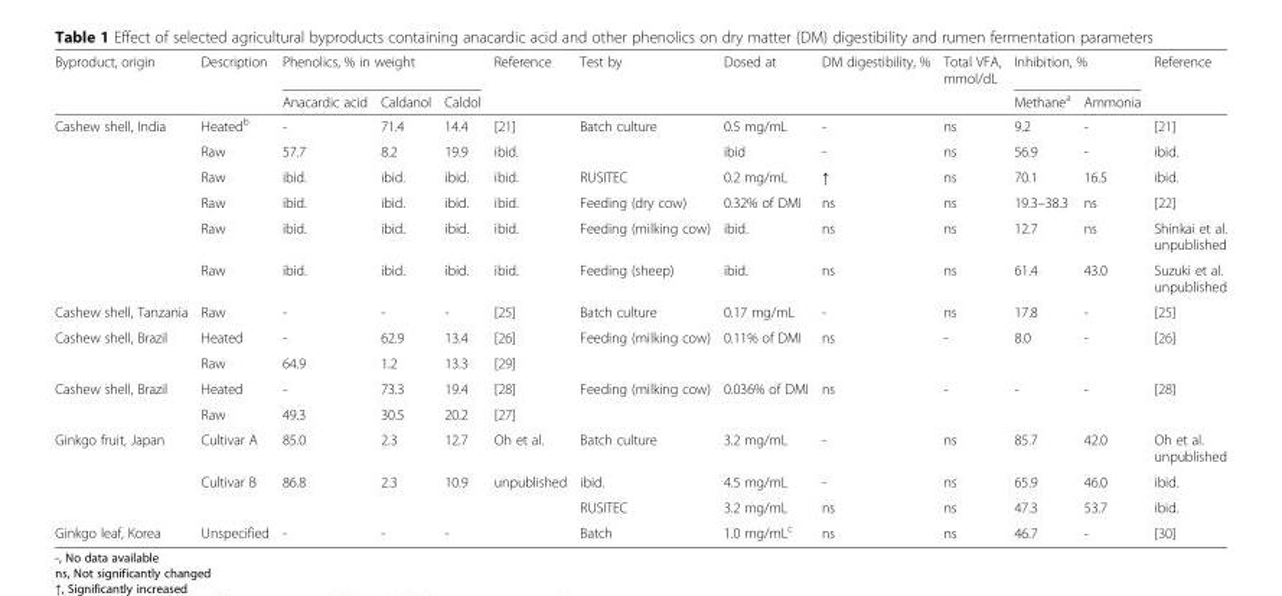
<table><thead><tr><td rowspan="2">Byproduct, origin</td><td rowspan="2">Description</td><td colspan="3">Phenolics, % in weight</td><td rowspan="2">Reference</td><td rowspan="2">Test by</td><td rowspan="2">Dosed at</td><td rowspan="2">DM digestibility, %</td><td rowspan="2">Total VFA, mmol/dL</td><td colspan="2">Inhibition, %</td><td rowspan="2">Reference</td></tr><tr><td>Anacardic acid</td><td>Caldanol</td><td>Caldol</td><td>Methane<sup>a</sup></td><td>Ammonia</td></tr></thead><tbody><tr><td rowspan="6">Cashew shell, India</td><td>Heated<sup>b</sup></td><td>-</td><td>71.4</td><td>14.4</td><td>[21]</td><td>Batch culture</td><td>0.5 mg/mL</td><td>-</td><td>ns</td><td>9.2</td><td>-</td><td>[21]</td></tr><tr><td>Raw</td><td>57.7</td><td>8.2</td><td>19.9</td><td>ibid.</td><td></td><td>ibid</td><td>-</td><td>ns</td><td>56.9</td><td>-</td><td>ibid.</td></tr><tr><td>Raw</td><td>ibid.</td><td>ibid.</td><td>ibid.</td><td>ibid.</td><td>RUSITEC</td><td>0.2 mg/mL</td><td>↑</td><td>ns</td><td>70.1</td><td>16.5</td><td>ibid.</td></tr><tr><td>Raw</td><td>ibid.</td><td>ibid.</td><td>ibid.</td><td>ibid.</td><td>Feeding (dry cow)</td><td>0.32% of DMI</td><td>ns</td><td>ns</td><td>19.3–38.3</td><td>ns</td><td>[22]</td></tr><tr><td>Raw</td><td>ibid.</td><td>ibid.</td><td>ibid.</td><td>ibid.</td><td>Feeding (milking cow)</td><td>ibid.</td><td>ns</td><td>ns</td><td>12.7</td><td>ns</td><td>Shinkai et al. unpublished</td></tr><tr><td>Raw</td><td>ibid.</td><td>ibid.</td><td>ibid.</td><td>ibid.</td><td>Feeding (sheep)</td><td>ibid.</td><td>ns</td><td>ns</td><td>61.4</td><td>43.0</td><td>Suzuki et al. unpublished</td></tr><tr><td>Cashew shell, Tanzania</td><td>Raw</td><td>-</td><td>-</td><td>-</td><td>[25]</td><td>Batch culture</td><td>0.17 mg/mL</td><td>-</td><td>ns</td><td>17.8</td><td>-</td><td>[25]</td></tr><tr><td rowspan="2">Cashew shell, Brazil</td><td>Heated</td><td>-</td><td>62.9</td><td>13.4</td><td>[26]</td><td>Feeding (milking cow)</td><td>0.11% of DMI</td><td>ns</td><td>-</td><td>8.0</td><td>-</td><td>[26]</td></tr><tr><td>Raw</td><td>64.9</td><td>1.2</td><td>13.3</td><td>[29]</td><td></td><td></td><td></td><td></td><td></td><td></td><td></td></tr><tr><td rowspan="2">Cashew shell, Brazil</td><td>Heated</td><td>-</td><td>73.3</td><td>19.4</td><td>[28]</td><td>Feeding (milking cow)</td><td>0.036% of DMI</td><td>ns</td><td>-</td><td>-</td><td>-</td><td>[28]</td></tr><tr><td>Raw</td><td>49.3</td><td>30.5</td><td>20.2</td><td>[27]</td><td></td><td></td><td></td><td></td><td></td><td></td><td></td></tr><tr><td rowspan="3">Ginkgo fruit, Japan</td><td>Cultivar A</td><td>85.0</td><td>2.3</td><td>12.7</td><td>Oh et al.</td><td>Batch culture</td><td>3.2 mg/mL</td><td>-</td><td>ns</td><td>85.7</td><td>42.0</td><td>Oh et al. unpublished</td></tr><tr><td>Cultivar B</td><td>86.8</td><td>2.3</td><td>10.9</td><td>unpublished</td><td>ibid.</td><td>4.5 mg/mL</td><td>-</td><td>ns</td><td>65.9</td><td>46.0</td><td>ibid.</td></tr><tr><td></td><td></td><td></td><td></td><td></td><td>RUSITEC</td><td>3.2 mg/mL</td><td>ns</td><td>ns</td><td>47.3</td><td>53.7</td><td>ibid.</td></tr><tr><td>Ginkgo leaf, Korea</td><td>Unspecified</td><td>-</td><td>-</td><td>-</td><td></td><td>Batch</td><td>1.0 mg/mL<sup>c</sup></td><td>ns</td><td>ns</td><td>46.7</td><td>-</td><td>[30]</td></tr></tbody></table>